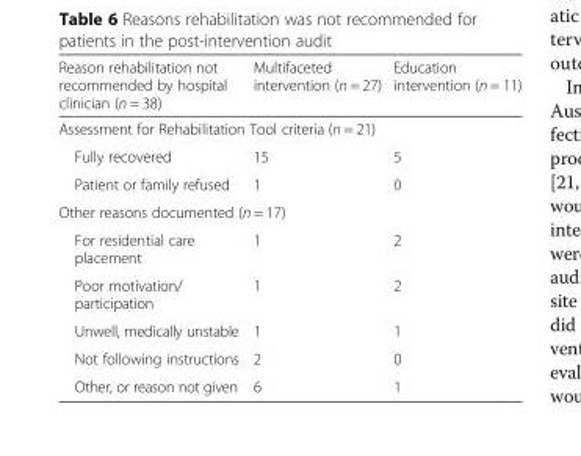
<table><thead><tr><td>Reason rehabilitation not recommended by hospital clinician (n = 38)</td><td>Multifaceted intervention (n = 27)</td><td>Education intervention (n = 11)</td></tr></thead><tbody><tr><td colspan="3">Assessment for Rehabilitation Tool criteria (n = 21)</td></tr><tr><td>Fully recovered</td><td>15</td><td>5</td></tr><tr><td>Patient or family refused</td><td>1</td><td>0</td></tr><tr><td colspan="3">Other reasons documented (n = 17)</td></tr><tr><td>For residential care placement</td><td>1</td><td>2</td></tr><tr><td>Poor motivation/ participation</td><td>1</td><td>2</td></tr><tr><td>Unwell, medically unstable</td><td>1</td><td>1</td></tr><tr><td>Not following instructions</td><td>2</td><td>0</td></tr><tr><td>Other, or reason not given</td><td>6</td><td>1</td></tr></tbody></table>